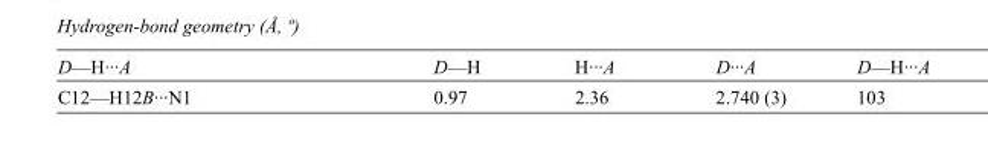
<table><tbody><tr><td>D—H···A</td><td>D—H</td><td>H···A</td><td>D···A</td><td>D—H···A</td></tr><tr><td>C12—H12B···N1</td><td>0.97</td><td>2.36</td><td>2.740 (3)</td><td>103</td></tr></tbody></table>